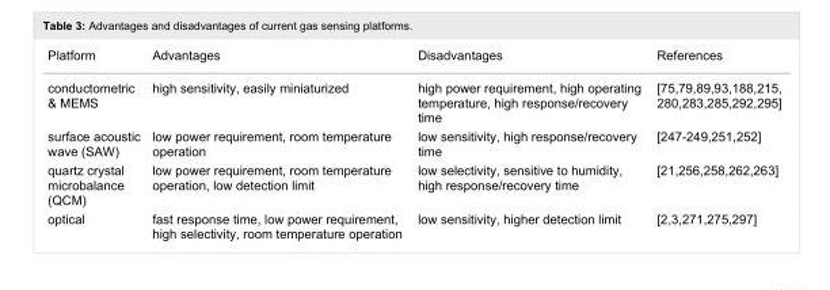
<table><tbody><tr><td>Platform</td><td>Advantages</td><td>Disadvantages</td><td>References</td></tr><tr><td>conductometric &amp; MEMS</td><td>high sensitivity, easily miniaturized</td><td>high power requirement, high operating temperature, high response/recovery time</td><td>[75,79,89,93,188,215, 280,283,285,292,295]</td></tr><tr><td>surface acoustic wave (SAW)</td><td>low power requirement, room temperature operation</td><td>low sensitivity, high response/recovery time</td><td>[247-249,251,252]</td></tr><tr><td>quartz crystal microbalance (QCM)</td><td>low power requirement, room temperature operation, low detection limit</td><td>low selectivity, sensitive to humidity, high response/recovery time</td><td>[21,256,258,262–263]</td></tr><tr><td>optical</td><td>fast response time, low power requirement, high selectivity, room temperature operation</td><td>low sensitivity, higher detection limit</td><td>[2,3,271,275,297]</td></tr></tbody></table>